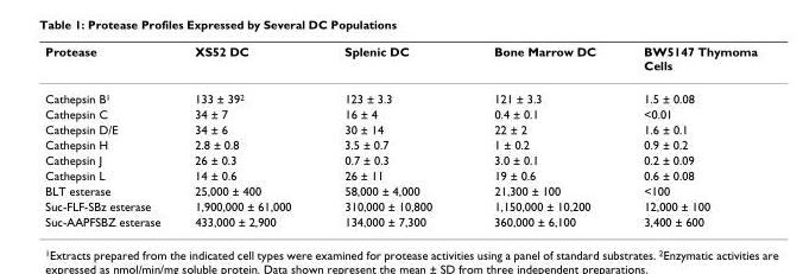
<table><thead><tr><td>Protease</td><td>XS52 DC</td><td>Splenic DC</td><td>Bone Marrow DC</td><td>BW5147 Thymoma Cells</td></tr></thead><tbody><tr><td>Cathepsin B<sup>1</sup></td><td>133 ± 39<sup>2</sup></td><td>123 ± 3.3</td><td>121 ± 3.3</td><td>1.5 ± 0.08</td></tr><tr><td>Cathepsin C</td><td>34 ± 7</td><td>16 ± 4</td><td>0.4 ± 0.1</td><td>&lt;0.01</td></tr><tr><td>Cathepsin D/E</td><td>34 ± 6</td><td>30 ± 14</td><td>22 ± 2</td><td>1.6 ± 0.1</td></tr><tr><td>Cathepsin H</td><td>2.8 ± 0.8</td><td>3.5 ± 0.7</td><td>1 ± 0.2</td><td>0.9 ± 0.2</td></tr><tr><td>Cathepsin J</td><td>26 ± 0.3</td><td>0.7 ± 0.3</td><td>3.0 ± 0.1</td><td>0.2 ± 0.09</td></tr><tr><td>Cathepsin L</td><td>14 ± 0.6</td><td>26 ± 11</td><td>19 ± 0.6</td><td>0.6 ± 0.08</td></tr><tr><td>BLT esterase</td><td>25,000 ± 400</td><td>58,000 ± 4,000</td><td>21,300 ± 100</td><td>&lt;100</td></tr><tr><td>Suc-FLF-SBz esterase</td><td>1,900,000 ± 61,000</td><td>310,000 ± 10,800</td><td>1,150,000 ± 10,200</td><td>12,000 ± 100</td></tr><tr><td>Suc-AAPFSBZ esterase</td><td>433,000 ± 2,900</td><td>134,000 ± 7,300</td><td>360,000 ± 6,100</td><td>3,400 ± 600</td></tr></tbody></table>